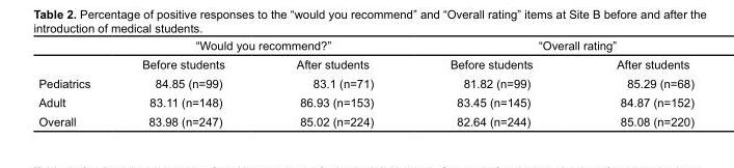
<table><thead><tr><td rowspan="2"></td><td colspan="2">“Would you recommend?”</td><td colspan="2">“Overall rating”</td></tr><tr><td>Before students</td><td>After students</td><td>Before students</td><td>After students</td></tr></thead><tbody><tr><td>Pediatrics</td><td>84.85 (n=99)</td><td>83.1 (n=71)</td><td>81.82 (n=99)</td><td>85.29 (n=68)</td></tr><tr><td>Adult</td><td>83.11 (n=148)</td><td>86.93 (n=153)</td><td>83.45 (n=145)</td><td>84.87 (n=152)</td></tr><tr><td>Overall</td><td>83.98 (n=247)</td><td>85.02 (n=224)</td><td>82.64 (n=244)</td><td>85.08 (n=220)</td></tr></tbody></table>